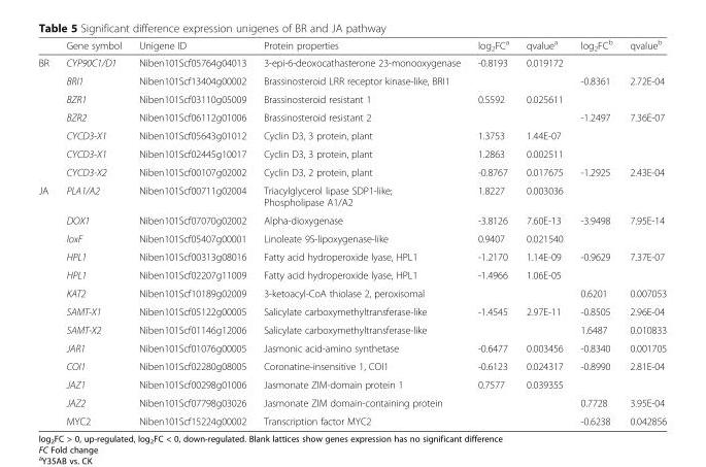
<table><thead><tr><td></td><td>Gene symbol</td><td>Unigene ID</td><td>Protein properties</td><td>log<sub>2</sub>FC<sup>a</sup></td><td>qvalue<sup>a</sup></td><td>log<sub>2</sub>FC<sup>b</sup></td><td>qvalue<sup>b</sup></td></tr></thead><tbody><tr><td rowspan="7">BR</td><td>CYP90C1/D1</td><td>Niben101Scf05764g04013</td><td>3-epi-6-deoxocathasterone 23-monooxygenase</td><td>-0.8193</td><td>0.019172</td><td></td><td></td></tr><tr><td>BRI1</td><td>Niben101Scf13404g00002</td><td>Brassinosteroid LRR receptor kinase-like, BRI1</td><td></td><td></td><td>-0.8361</td><td>2.72E-04</td></tr><tr><td>BZR1</td><td>Niben101Scf03110g05009</td><td>Brassinosteroid resistant 1</td><td>0.5592</td><td>0.025611</td><td></td><td></td></tr><tr><td>BZR2</td><td>Niben101Scf06112g01006</td><td>Brassinosteroid resistant 2</td><td></td><td></td><td>-1.2497</td><td>7.36E-07</td></tr><tr><td>CYCD3-X1</td><td>Niben101Scf05643g01012</td><td>Cyclin D3, 3 protein, plant</td><td>1.3753</td><td>1.44E-07</td><td></td><td></td></tr><tr><td>CYCD3-X1</td><td>Niben101Scf02445g10017</td><td>Cyclin D3, 3 protein, plant</td><td>1.2863</td><td>0.002511</td><td></td><td></td></tr><tr><td>CYCD3-X2</td><td>Niben101Scf00107g02002</td><td>Cyclin D3, 2 protein, plant</td><td>-0.8767</td><td>0.017675</td><td>-1.2925</td><td>2.43E-04</td></tr><tr><td rowspan="13">JA</td><td>PLA1/A2</td><td>Niben101Scf00711g02004</td><td>Triacylglycerol lipase SDP1-like; Phospholipase A1/A2</td><td>1.8227</td><td>0.003036</td><td></td><td></td></tr><tr><td>DOX1</td><td>Niben101Scf07070g02002</td><td>Alpha-dioxygenase</td><td>-3.8126</td><td>7.60E-13</td><td>-3.9498</td><td>7.95E-14</td></tr><tr><td>loxF</td><td>Niben101Scf05407g00001</td><td>Linoleate 9S-lipoxygenase-like</td><td>0.9407</td><td>0.021540</td><td></td><td></td></tr><tr><td>HPL1</td><td>Niben101Scf00313g08016</td><td>Fatty acid hydroperoxide lyase, HPL1</td><td>-1.2170</td><td>1.14E-09</td><td>-0.9629</td><td>7.37E-07</td></tr><tr><td>HPL1</td><td>Niben101Scf02207g11009</td><td>Fatty acid hydroperoxide lyase, HPL1</td><td>-1.4966</td><td>1.06E-05</td><td></td><td></td></tr><tr><td>KAT2</td><td>Niben101Scf10189g02009</td><td>3-ketoacyl-CoA thiolase 2, peroxisomal</td><td></td><td></td><td>0.6201</td><td>0.007053</td></tr><tr><td>SAMT-X1</td><td>Niben101Scf05122g00005</td><td>Salicylate carboxymethyltransferase-like</td><td>-1.4545</td><td>2.97E-11</td><td>-0.8505</td><td>2.96E-04</td></tr><tr><td>SAMT-X2</td><td>Niben101Scf01146g12006</td><td>Salicylate carboxymethyltransferase-like</td><td></td><td></td><td>1.6487</td><td>0.010833</td></tr><tr><td>JAR1</td><td>Niben101Scf01076g00005</td><td>Jasmonic acid-amino synthetase</td><td>-0.6477</td><td>0.003456</td><td>-0.8340</td><td>0.001705</td></tr><tr><td>COI1</td><td>Niben101Scf02280g08005</td><td>Coronatine-insensitive 1, COI1</td><td>-0.6123</td><td>0.024317</td><td>-0.8990</td><td>2.81E-04</td></tr><tr><td>JAZ1</td><td>Niben101Scf00298g01006</td><td>Jasmonate ZIM-domain protein 1</td><td>0.7577</td><td>0.039355</td><td></td><td></td></tr><tr><td>JAZ2</td><td>Niben101Scf07798g03026</td><td>Jasmonate ZIM domain-containing protein</td><td></td><td></td><td>0.7728</td><td>3.95E-04</td></tr><tr><td>MYC2</td><td>Niben101Scf15224g00002</td><td>Transcription factor MYC2</td><td></td><td></td><td>-0.6238</td><td>0.042856</td></tr></tbody></table>